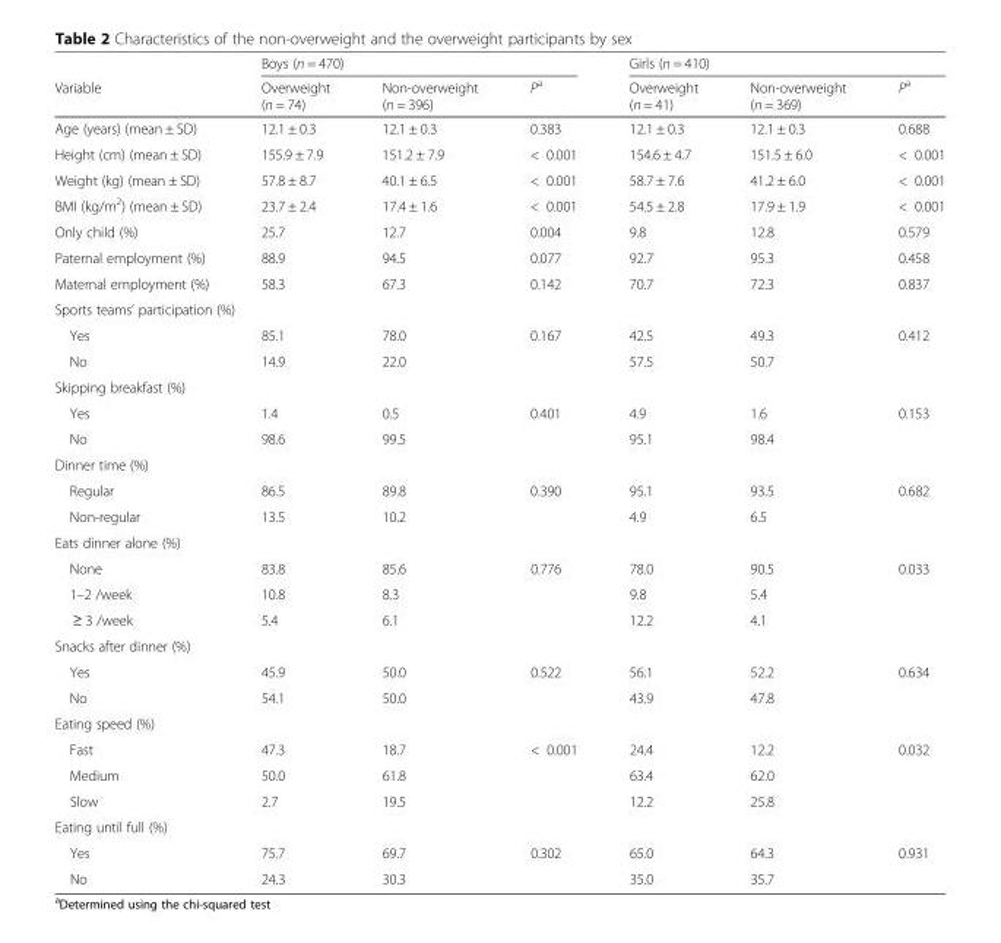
<table><thead><tr><td rowspan="2">Variable</td><td colspan="3">Boys (n = 470)</td><td colspan="3">Girls (n = 410)</td></tr><tr><td>Overweight (n = 74)</td><td>Non-overweight (n = 396)</td><td>P<sup>a</sup></td><td>Overweight (n = 41)</td><td>Non-overweight (n = 369)</td><td>P<sup>a</sup></td></tr></thead><tbody><tr><td>Age (years) (mean ± SD)</td><td>12.1 ± 0.3</td><td>12.1 ± 0.3</td><td>0.383</td><td>12.1 ± 0.3</td><td>12.1 ± 0.3</td><td>0.688</td></tr><tr><td>Height (cm) (mean ± SD)</td><td>155.9 ± 7.9</td><td>151.2 ± 7.9</td><td>&lt; 0.001</td><td>154.6 ± 4.7</td><td>151.5 ± 6.0</td><td>&lt; 0.001</td></tr><tr><td>Weight (kg) (mean ± SD)</td><td>57.8 ± 8.7</td><td>40.1 ± 6.5</td><td>&lt; 0.001</td><td>58.7 ± 7.6</td><td>41.2 ± 6.0</td><td>&lt; 0.001</td></tr><tr><td>BMI (kg/m<sup>2</sup>) (mean ± SD)</td><td>23.7 ± 2.4</td><td>17.4 ± 1.6</td><td>&lt; 0.001</td><td>54.5 ± 2.8</td><td>17.9 ± 1.9</td><td>&lt; 0.001</td></tr><tr><td>Only child (%)</td><td>25.7</td><td>12.7</td><td>0.004</td><td>9.8</td><td>12.8</td><td>0.579</td></tr><tr><td>Paternal employment (%)</td><td>88.9</td><td>94.5</td><td>0.077</td><td>92.7</td><td>95.3</td><td>0.458</td></tr><tr><td>Maternal employment (%)</td><td>58.3</td><td>67.3</td><td>0.142</td><td>70.7</td><td>72.3</td><td>0.837</td></tr><tr><td colspan="7">Sports teams’ participation (%)</td></tr><tr><td>Yes</td><td>85.1</td><td>78.0</td><td>0.167</td><td>42.5</td><td>49.3</td><td>0.412</td></tr><tr><td>No</td><td>14.9</td><td>22.0</td><td></td><td>57.5</td><td>50.7</td><td></td></tr><tr><td colspan="7">Skipping breakfast (%)</td></tr><tr><td>Yes</td><td>1.4</td><td>0.5</td><td>0.401</td><td>4.9</td><td>1.6</td><td>0.153</td></tr><tr><td>No</td><td>98.6</td><td>99.5</td><td></td><td>95.1</td><td>98.4</td><td></td></tr><tr><td colspan="7">Dinner time (%)</td></tr><tr><td>Regular</td><td>86.5</td><td>89.8</td><td>0.390</td><td>95.1</td><td>93.5</td><td>0.682</td></tr><tr><td>Non-regular</td><td>13.5</td><td>10.2</td><td></td><td>4.9</td><td>6.5</td><td></td></tr><tr><td colspan="7">Eats dinner alone (%)</td></tr><tr><td>None</td><td>83.8</td><td>85.6</td><td>0.776</td><td>78.0</td><td>90.5</td><td>0.033</td></tr><tr><td>1–2 /week</td><td>10.8</td><td>8.3</td><td></td><td>9.8</td><td>5.4</td><td></td></tr><tr><td>≥ 3 /week</td><td>5.4</td><td>6.1</td><td></td><td>12.2</td><td>4.1</td><td></td></tr><tr><td colspan="7">Snacks after dinner (%)</td></tr><tr><td>Yes</td><td>45.9</td><td>50.0</td><td>0.522</td><td>56.1</td><td>52.2</td><td>0.634</td></tr><tr><td>No</td><td>54.1</td><td>50.0</td><td></td><td>43.9</td><td>47.8</td><td></td></tr><tr><td colspan="7">Eating speed (%)</td></tr><tr><td>Fast</td><td>47.3</td><td>18.7</td><td>&lt; 0.001</td><td>24.4</td><td>12.2</td><td>0.032</td></tr><tr><td>Medium</td><td>50.0</td><td>61.8</td><td></td><td>63.4</td><td>62.0</td><td></td></tr><tr><td>Slow</td><td>2.7</td><td>19.5</td><td></td><td>12.2</td><td>25.8</td><td></td></tr><tr><td colspan="7">Eating until full (%)</td></tr><tr><td>Yes</td><td>75.7</td><td>69.7</td><td>0.302</td><td>65.0</td><td>64.3</td><td>0.931</td></tr><tr><td>No</td><td>24.3</td><td>30.3</td><td></td><td>35.0</td><td>35.7</td><td></td></tr></tbody></table>